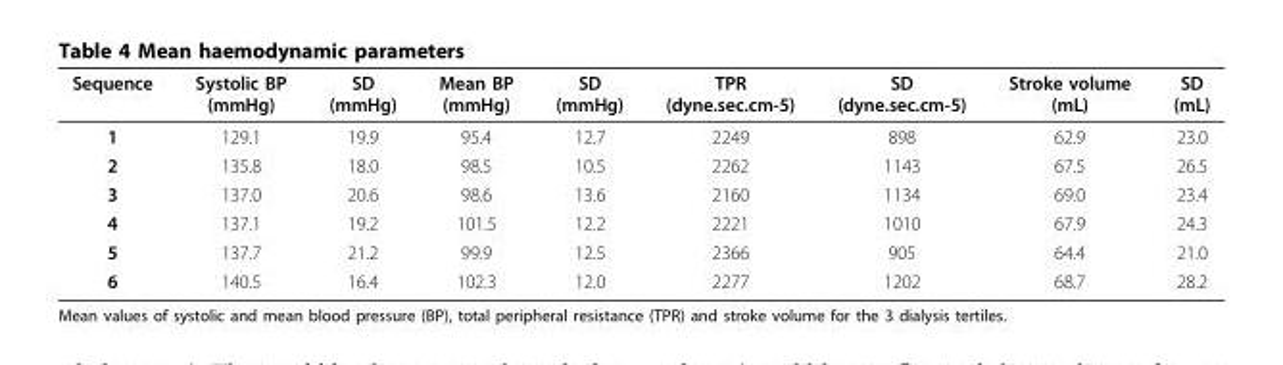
<table><thead><tr><td>Sequence</td><td>Systolic BP (mmHg)</td><td>SD (mmHg)</td><td>Mean BP (mmHg)</td><td>SD (mmHg)</td><td>TPR (dyne.sec.cm-5)</td><td>SD (dyne.sec.cm-5)</td><td>Stroke volume (mL)</td><td>SD (mL)</td></tr></thead><tbody><tr><td>1</td><td>129.1</td><td>19.9</td><td>95.4</td><td>12.7</td><td>2249</td><td>898</td><td>62.9</td><td>23.0</td></tr><tr><td>2</td><td>135.8</td><td>18.0</td><td>98.5</td><td>10.5</td><td>2262</td><td>1143</td><td>67.5</td><td>26.5</td></tr><tr><td>3</td><td>137.0</td><td>20.6</td><td>98.6</td><td>13.6</td><td>2160</td><td>1134</td><td>69.0</td><td>23.4</td></tr><tr><td>4</td><td>137.1</td><td>19.2</td><td>101.5</td><td>12.2</td><td>2221</td><td>1010</td><td>67.9</td><td>24.3</td></tr><tr><td>5</td><td>137.7</td><td>21.2</td><td>99.9</td><td>12.5</td><td>2366</td><td>905</td><td>64.4</td><td>21.0</td></tr><tr><td>6</td><td>140.5</td><td>16.4</td><td>102.3</td><td>12.0</td><td>2277</td><td>1202</td><td>68.7</td><td>28.2</td></tr></tbody></table>